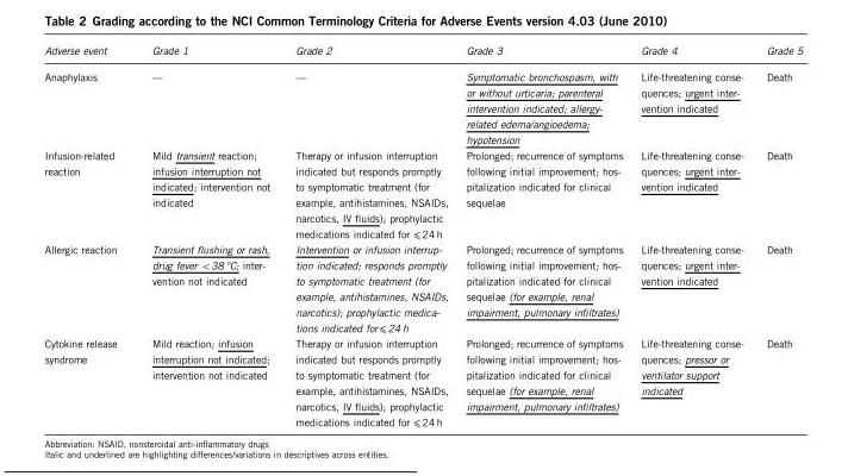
<table><thead><tr><td>Adverse event</td><td>Grade 1</td><td>Grade 2</td><td>Grade 3</td><td>Grade 4</td><td>Grade 5</td></tr></thead><tbody><tr><td>Anaphylaxis</td><td>—</td><td>—</td><td>Symptomatic bronchospasm, with or without urticaria; parenteral intervention indicated; allergy- related edema/angioedema; hypotension</td><td>Life-threatening conse- quences; urgent inter- vention indicated</td><td>Death</td></tr><tr><td>Infusion-related reaction</td><td>Mild transient reaction; infusion interruption not indicated; intervention not indicated</td><td>Therapy or infusion interruption indicated but responds promptly to symptomatic treatment (for example, antihistamines, NSAIDs, narcotics, IV fluids); prophylactic medications indicated for ⩽ 24 h</td><td>Prolonged; recurrence of symptoms following initial improvement; hos- pitalization indicated for clinical sequelae</td><td>Life-threatening conse- quences; urgent inter- vention indicated</td><td>Death</td></tr><tr><td>Allergic reaction</td><td>Transient flushing or rash, drug fever o38 °C; inter- vention not indicated</td><td>Intervention or infusion interrup- tion indicated; responds promptly to symptomatic treatment (for example, antihistamines, NSAIDs, narcotics); prophylactic medica- tions indicated for ⩽ 24 h</td><td>Prolonged; recurrence of symptoms following initial improvement; hos- pitalization indicated for clinical sequelae (for example, renal impairment, pulmonary infiltrates)</td><td>Life-threatening conse- quences; urgent inter- vention indicated</td><td>Death</td></tr><tr><td>Cytokine release syndrome</td><td>Mild reaction; infusion interruption not indicated; intervention not indicated</td><td>Therapy or infusion interruption indicated but responds promptly to symptomatic treatment (for example, antihistamines, NSAIDs, narcotics, IV fluids); prophylactic medications indicated for ⩽ 24 h</td><td>Prolonged; recurrence of symptoms following initial improvement; hos- pitalization indicated for clinical sequelae (for example, renal impairment, pulmonary infiltrates)</td><td>Life-threatening conse- quences; pressor or ventilator support indicated</td><td>Death</td></tr></tbody></table>